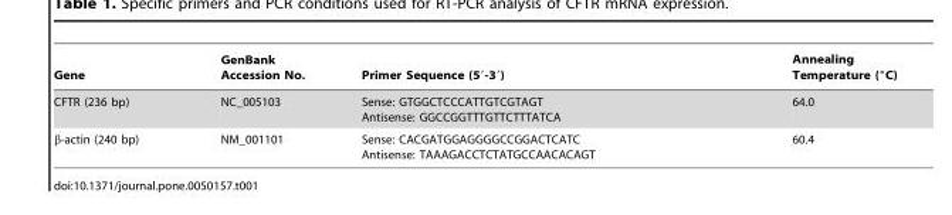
<table><thead><tr><td>Gene</td><td>GenBank Accession No.</td><td>Primer Sequence (5′-3′)</td><td>Annealing Temperature (°C)</td></tr></thead><tbody><tr><td>CFTR (236 bp)</td><td>NC_005103</td><td>Sense: GTGGCTCCCATTGTCGTAGT Antisense: GGCCGGTTTGTTCTTTATCA</td><td>64.0</td></tr><tr><td>β-actin (240 bp)</td><td>NM_001101</td><td>Sense: CACGATGGAGGGGCCGGACTCATC Antisense: TAAAGACCTCTATGCCAACACAGT</td><td>60.4</td></tr></tbody></table>